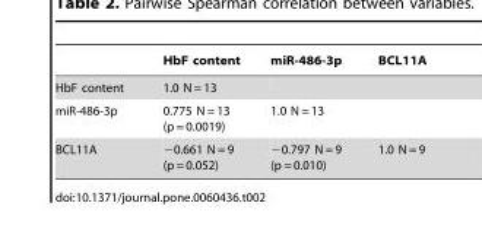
<table><thead><tr><td></td><td>HbF content</td><td>miR-486-3p</td><td>BCL11A</td></tr></thead><tbody><tr><td>HbF content</td><td>1.0 N = 13</td><td></td><td></td></tr><tr><td>miR-486-3p</td><td>0.775 N = 13 (p = 0.0019)</td><td>1.0 N = 13</td><td></td></tr><tr><td>BCL11A</td><td>−0.661 N = 9 (p = 0.052)</td><td>−0.797 N = 9 (p = 0.010)</td><td>1.0 N = 9</td></tr></tbody></table>